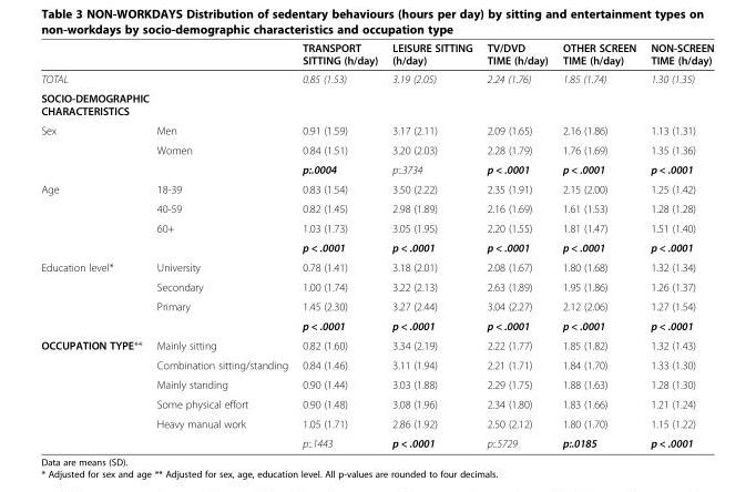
<table><thead><tr><td></td><td></td><td>TRANSPORT SITTING (h/day)</td><td>LEISURE SITTING (h/day)</td><td>TV/DVD TIME (h/day)</td><td>OTHER SCREEN TIME (h/day)</td><td>NON-SCREEN TIME (h/day)</td></tr></thead><tbody><tr><td colspan="2">TOTAL</td><td>0.85 (1.53)</td><td>3.19 (2.05)</td><td>2.24 (1.76)</td><td>1.85 (1.74)</td><td>1.30 (1.35)</td></tr><tr><td colspan="7">SOCIO-DEMOGRAPHIC CHARACTERISTICS</td></tr><tr><td rowspan="3">Sex</td><td>Men</td><td>0.91 (1.59)</td><td>3.17 (2.11)</td><td>2.09 (1.65)</td><td>2.16 (1.86)</td><td>1.13 (1.31)</td></tr><tr><td>Women</td><td>0.84 (1.51)</td><td>3.20 (2.03)</td><td>2.28 (1.79)</td><td>1.76 (1.69)</td><td>1.35 (1.36)</td></tr><tr><td></td><td>p:.0004</td><td>p:.3734</td><td>p &lt; .0001</td><td>p &lt; .0001</td><td>p &lt; .0001</td></tr><tr><td rowspan="4">Age</td><td>18-39</td><td>0.83 (1.54)</td><td>3.50 (2.22)</td><td>2.35 (1.91)</td><td>2.15 (2.00)</td><td>1.25 (1.42)</td></tr><tr><td>40-59</td><td>0.82 (1.45)</td><td>2.98 (1.89)</td><td>2.16 (1.69)</td><td>1.61 (1.53)</td><td>1.28 (1.28)</td></tr><tr><td>60+</td><td>1.03 (1.73)</td><td>3.05 (1.95)</td><td>2.20 (1.55)</td><td>1.81 (1.47)</td><td>1.51 (1.40)</td></tr><tr><td></td><td>p &lt; .0001</td><td>p &lt; .0001</td><td>p &lt; .0001</td><td>p &lt; .0001</td><td>p &lt; .0001</td></tr><tr><td rowspan="4">Education level*</td><td>University</td><td>0.78 (1.41)</td><td>3.18 (2.01)</td><td>2.08 (1.67)</td><td>1.80 (1.68)</td><td>1.32 (1.34)</td></tr><tr><td>Secondary</td><td>1.00 (1.74)</td><td>3.22 (2.13)</td><td>2.63 (1.89)</td><td>1.95 (1.86)</td><td>1.26 (1.37)</td></tr><tr><td>Primary</td><td>1.45 (2.30)</td><td>3.27 (2.44)</td><td>3.04 (2.27)</td><td>2.12 (2.06)</td><td>1.27 (1.54)</td></tr><tr><td></td><td>p &lt; .0001</td><td>p &lt; .0001</td><td>p &lt; .0001</td><td>p &lt; .0001</td><td>p &lt; .0001</td></tr><tr><td rowspan="6">OCCUPATION TYPE**</td><td>Mainly sitting</td><td>0.82 (1.60)</td><td>3.34 (2.19)</td><td>2.22 (1.77)</td><td>1.85 (1.82)</td><td>1.32 (1.43)</td></tr><tr><td>Combination sitting/standing</td><td>0.84 (1.46)</td><td>3.11 (1.94)</td><td>2.21 (1.71)</td><td>1.84 (1.70)</td><td>1.33 (1.30)</td></tr><tr><td>Mainly standing</td><td>0.90 (1.44)</td><td>3.03 (1.88)</td><td>2.29 (1.75)</td><td>1.88 (1.63)</td><td>1.28 (1.30)</td></tr><tr><td>Some physical effort</td><td>0.90 (1.48)</td><td>3.08 (1.96)</td><td>2.34 (1.80)</td><td>1.83 (1.66)</td><td>1.21 (1.24)</td></tr><tr><td>Heavy manual work</td><td>1.05 (1.71)</td><td>2.86 (1.92)</td><td>2.50 (2.12)</td><td>1.80 (1.70)</td><td>1.15 (1.22)</td></tr><tr><td></td><td>p:.1443</td><td>p &lt; .0001</td><td>p:.5729</td><td>p:.0185</td><td>p &lt; .0001</td></tr></tbody></table>